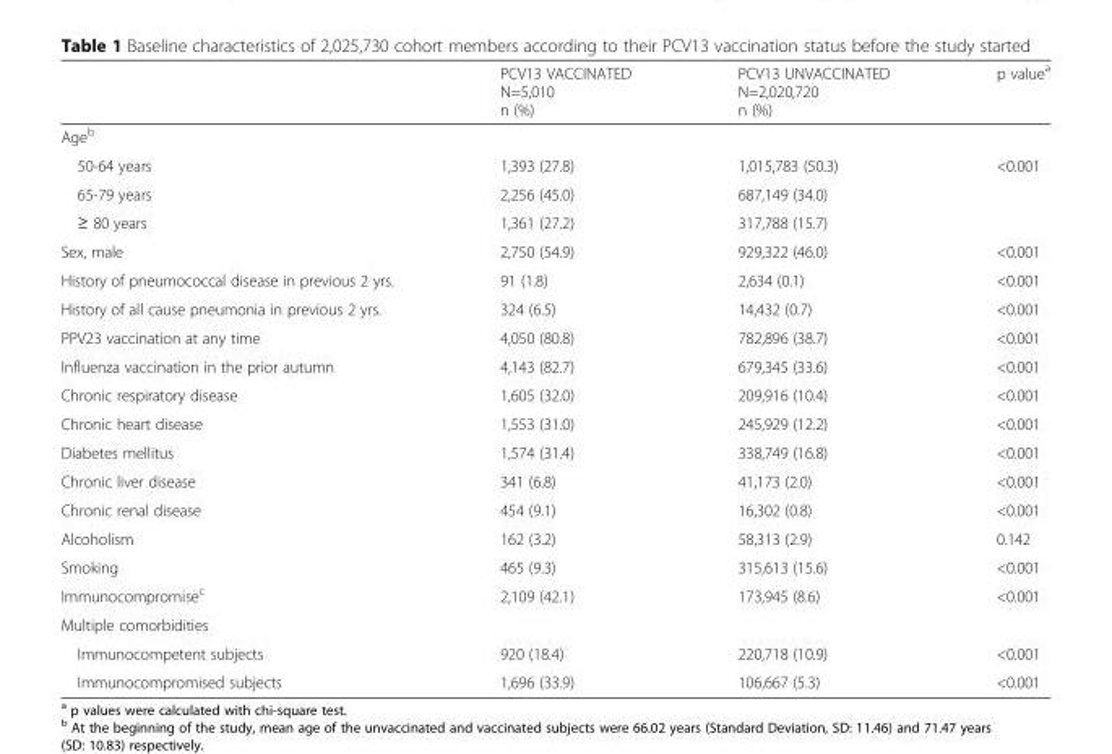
<table><thead><tr><td></td><td>PCV13 VACCINATED N=5,010 n (%)</td><td>PCV13 UNVACCINATED N=2,020,720 n (%)</td><td>p value<sup>a</sup></td></tr></thead><tbody><tr><td colspan="4">Age<sup>b</sup></td></tr><tr><td>50-64 years</td><td>1,393 (27.8)</td><td>1,015,783 (50.3)</td><td rowspan="3">&lt;0.001</td></tr><tr><td>65-79 years</td><td>2,256 (45.0)</td><td>687,149 (34.0)</td></tr><tr><td>≥ 80 years</td><td>1,361 (27.2)</td><td>317,788 (15.7)</td></tr><tr><td>Sex, male</td><td>2,750 (54.9)</td><td>929,322 (46.0)</td><td>&lt;0.001</td></tr><tr><td>History of pneumococcal disease in previous 2 yrs.</td><td>91 (1.8)</td><td>2,634 (0.1)</td><td>&lt;0.001</td></tr><tr><td>History of all cause pneumonia in previous 2 yrs.</td><td>324 (6.5)</td><td>14,432 (0.7)</td><td>&lt;0.001</td></tr><tr><td>PPV23 vaccination at any time</td><td>4,050 (80.8)</td><td>782,896 (38.7)</td><td>&lt;0.001</td></tr><tr><td>Influenza vaccination in the prior autumn</td><td>4,143 (82.7)</td><td>679,345 (33.6)</td><td>&lt;0.001</td></tr><tr><td>Chronic respiratory disease</td><td>1,605 (32.0)</td><td>209,916 (10.4)</td><td>&lt;0.001</td></tr><tr><td>Chronic heart disease</td><td>1,553 (31.0)</td><td>245,929 (12.2)</td><td>&lt;0.001</td></tr><tr><td>Diabetes mellitus</td><td>1,574 (31.4)</td><td>338,749 (16.8)</td><td>&lt;0.001</td></tr><tr><td>Chronic liver disease</td><td>341 (6.8)</td><td>41,173 (2.0)</td><td>&lt;0.001</td></tr><tr><td>Chronic renal disease</td><td>454 (9.1)</td><td>16,302 (0.8)</td><td>&lt;0.001</td></tr><tr><td>Alcoholism</td><td>162 (3.2)</td><td>58,313 (2.9)</td><td>0.142</td></tr><tr><td>Smoking</td><td>465 (9.3)</td><td>315,613 (15.6)</td><td>&lt;0.001</td></tr><tr><td>Immunocompromise<sup>c</sup></td><td>2,109 (42.1)</td><td>173,945 (8.6)</td><td>&lt;0.001</td></tr><tr><td colspan="4">Multiple comorbidities</td></tr><tr><td>Immunocompetent subjects</td><td>920 (18.4)</td><td>220,718 (10.9)</td><td>&lt;0.001</td></tr><tr><td>Immunocompromised subjects</td><td>1,696 (33.9)</td><td>106,667 (5.3)</td><td>&lt;0.001</td></tr></tbody></table>